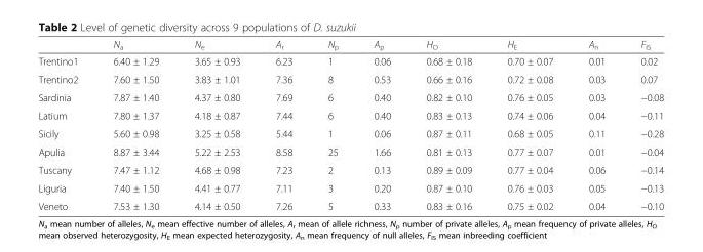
<table><thead><tr><td></td><td>N<sub>a</sub></td><td>N<sub>e</sub></td><td>A<sub>r</sub></td><td>N<sub>p</sub></td><td>A<sub>p</sub></td><td>H<sub>O</sub></td><td>H<sub>E</sub></td><td>A<sub>n</sub></td><td>F<sub>IS</sub></td></tr></thead><tbody><tr><td>Trentino1</td><td>6.40 ± 1.29</td><td>3.65 ± 0.93</td><td>6.23</td><td>1</td><td>0.06</td><td>0.68 ± 0.18</td><td>0.70 ± 0.07</td><td>0.01</td><td>0.02</td></tr><tr><td>Trentino2</td><td>7.60 ± 1.50</td><td>3.83 ± 1.01</td><td>7.36</td><td>8</td><td>0.53</td><td>0.66 ± 0.16</td><td>0.72 ± 0.08</td><td>0.03</td><td>0.07</td></tr><tr><td>Sardinia</td><td>7.87 ± 1.40</td><td>4.37 ± 0.80</td><td>7.69</td><td>6</td><td>0.40</td><td>0.82 ± 0.10</td><td>0.76 ± 0.05</td><td>0.03</td><td>−0.08</td></tr><tr><td>Latium</td><td>7.80 ± 1.37</td><td>4.18 ± 0.87</td><td>7.44</td><td>6</td><td>0.40</td><td>0.83 ± 0.13</td><td>0.74 ± 0.06</td><td>0.04</td><td>−0.11</td></tr><tr><td>Sicily</td><td>5.60 ± 0.98</td><td>3.25 ± 0.58</td><td>5.44</td><td>1</td><td>0.06</td><td>0.87 ± 0.11</td><td>0.68 ± 0.05</td><td>0.11</td><td>−0.28</td></tr><tr><td>Apulia</td><td>8.87 ± 3.44</td><td>5.22 ± 2.53</td><td>8.58</td><td>25</td><td>1.66</td><td>0.81 ± 0.13</td><td>0.77 ± 0.07</td><td>0.01</td><td>−0.04</td></tr><tr><td>Tuscany</td><td>7.47 ± 1.12</td><td>4.68 ± 0.98</td><td>7.23</td><td>2</td><td>0.13</td><td>0.89 ± 0.09</td><td>0.77 ± 0.04</td><td>0.06</td><td>−0.14</td></tr><tr><td>Liguria</td><td>7.40 ± 1.50</td><td>4.41 ± 0.77</td><td>7.11</td><td>3</td><td>0.20</td><td>0.87 ± 0.10</td><td>0.76 ± 0.03</td><td>0.05</td><td>−0.13</td></tr><tr><td>Veneto</td><td>7.53 ± 1.30</td><td>4.14 ± 0.50</td><td>7.26</td><td>5</td><td>0.33</td><td>0.83 ± 0.16</td><td>0.75 ± 0.02</td><td>0.04</td><td>−0.10</td></tr></tbody></table>